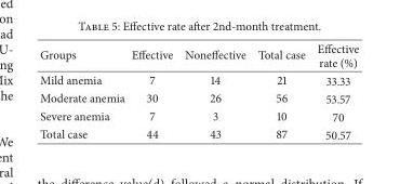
<table><thead><tr><td>Groups</td><td>Effective</td><td>Noneffective</td><td>Total case</td><td>Effective rate (%)</td></tr></thead><tbody><tr><td>Mild anemia</td><td>7</td><td>14</td><td>21</td><td>33.33</td></tr><tr><td>Moderate anemia</td><td>30</td><td>26</td><td>56</td><td>53.57</td></tr><tr><td>Severe anemia</td><td>7</td><td>3</td><td>10</td><td>70</td></tr><tr><td>Total case</td><td>44</td><td>43</td><td>87</td><td>50.57</td></tr></tbody></table>